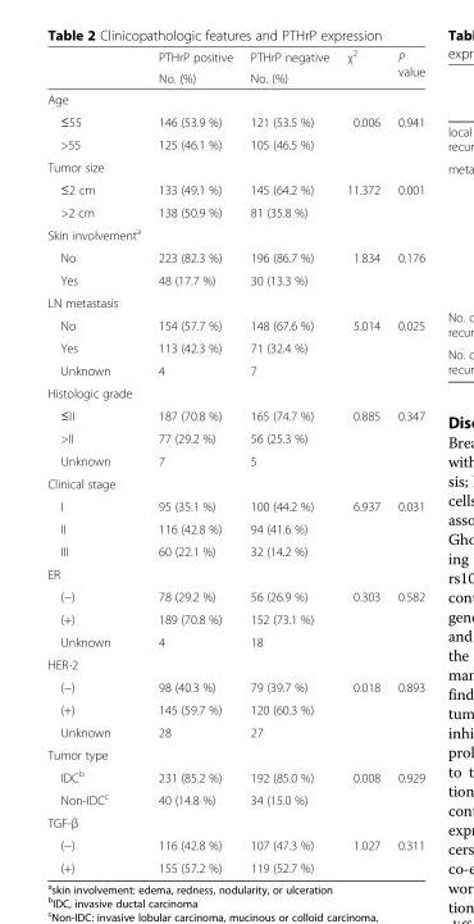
<table><thead><tr><td rowspan="2"></td><td rowspan="2">PTHrP positive No. (%)</td><td rowspan="2">PTHrP negative No. (%)</td><td rowspan="2">χ<sup>2</sup></td><td rowspan="2">P value</td></tr><tr></tr></thead><tbody><tr><td colspan="5">Age</td></tr><tr><td>≤55</td><td>146 (53.9 %)</td><td>121 (53.5 %)</td><td>0.006</td><td>0.941</td></tr><tr><td>&gt;55</td><td>125 (46.1 %)</td><td>105 (46.5 %)</td><td></td><td></td></tr><tr><td colspan="5">Tumor size</td></tr><tr><td>≤2 cm</td><td>133 (49.1 %)</td><td>145 (64.2 %)</td><td>11.372</td><td>0.001</td></tr><tr><td>&gt;2 cm</td><td>138 (50.9 %)</td><td>81 (35.8 %)</td><td></td><td></td></tr><tr><td colspan="5">Skin involvement<sup>a</sup></td></tr><tr><td>No</td><td>223 (82.3 %)</td><td>196 (86.7 %)</td><td>1.834</td><td>0.176</td></tr><tr><td>Yes</td><td>48 (17.7 %)</td><td>30 (13.3 %)</td><td></td><td></td></tr><tr><td colspan="5">LN metastasis</td></tr><tr><td>No</td><td>154 (57.7 %)</td><td>148 (67.6 %)</td><td>5.014</td><td>0.025</td></tr><tr><td>Yes</td><td>113 (42.3 %)</td><td>71 (32.4 %)</td><td></td><td></td></tr><tr><td>Unknown</td><td>4</td><td>7</td><td></td><td></td></tr><tr><td colspan="5">Histologic grade</td></tr><tr><td>≤II</td><td>187 (70.8 %)</td><td>165 (74.7 %)</td><td>0.885</td><td>0.347</td></tr><tr><td>&gt;II</td><td>77 (29.2 %)</td><td>56 (25.3 %)</td><td></td><td></td></tr><tr><td>Unknown</td><td>7</td><td>5</td><td></td><td></td></tr><tr><td colspan="5">Clinical stage</td></tr><tr><td>I</td><td>95 (35.1 %)</td><td>100 (44.2 %)</td><td>6.937</td><td>0.031</td></tr><tr><td>II</td><td>116 (42.8 %)</td><td>94 (41.6 %)</td><td></td><td></td></tr><tr><td>III</td><td>60 (22.1 %)</td><td>32 (14.2 %)</td><td></td><td></td></tr><tr><td colspan="5">ER</td></tr><tr><td>(−)</td><td>78 (29.2 %)</td><td>56 (26.9 %)</td><td>0.303</td><td>0.582</td></tr><tr><td>(+)</td><td>189 (70.8 %)</td><td>152 (73.1 %)</td><td></td><td></td></tr><tr><td>Unknown</td><td>4</td><td>18</td><td></td><td></td></tr><tr><td colspan="5">HER-2</td></tr><tr><td>(−)</td><td>98 (40.3 %)</td><td>79 (39.7 %)</td><td>0.018</td><td>0.893</td></tr><tr><td>(+)</td><td>145 (59.7 %)</td><td>120 (60.3 %)</td><td></td><td></td></tr><tr><td>Unknown</td><td>28</td><td>27</td><td></td><td></td></tr><tr><td colspan="5">Tumor type</td></tr><tr><td>IDC<sup>b</sup></td><td>231 (85.2 %)</td><td>192 (85.0 %)</td><td>0.008</td><td>0.929</td></tr><tr><td>Non-IDC<sup>c</sup></td><td>40 (14.8 %)</td><td>34 (15.0 %)</td><td></td><td></td></tr><tr><td colspan="5">TGF-β</td></tr><tr><td>(−)</td><td>116 (42.8 %)</td><td>107 (47.3 %)</td><td>1.027</td><td>0.311</td></tr><tr><td>(+)</td><td>155 (57.2 %)</td><td>119 (52.7 %)</td><td></td><td></td></tr></tbody></table>